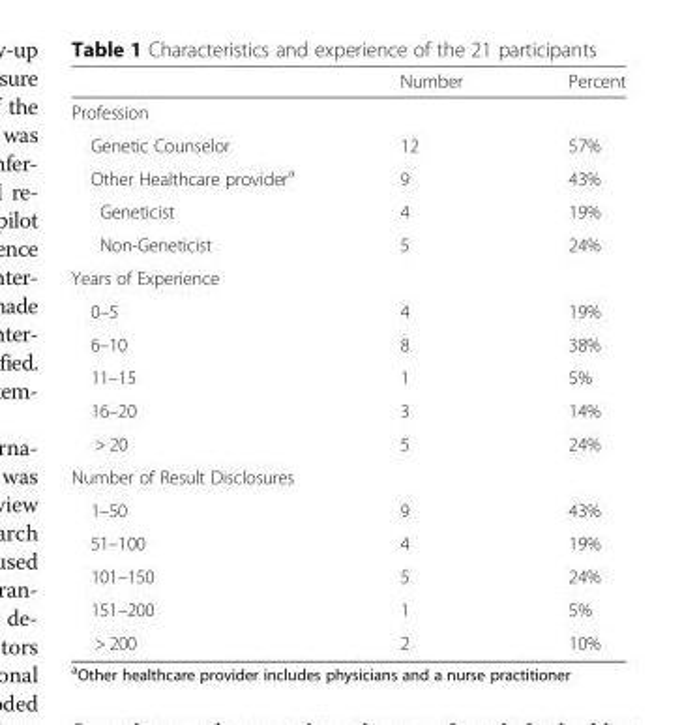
<table><thead><tr><td></td><td>Number</td><td>Percent</td></tr></thead><tbody><tr><td colspan="3">Profession</td></tr><tr><td>Genetic Counselor</td><td>12</td><td>57%</td></tr><tr><td>Other Healthcare provider<sup>a</sup></td><td>9</td><td>43%</td></tr><tr><td>Geneticist</td><td>4</td><td>19%</td></tr><tr><td>Non-Geneticist</td><td>5</td><td>24%</td></tr><tr><td colspan="3">Years of Experience</td></tr><tr><td>0–5</td><td>4</td><td>19%</td></tr><tr><td>6–10</td><td>8</td><td>38%</td></tr><tr><td>11–15</td><td>1</td><td>5%</td></tr><tr><td>16–20</td><td>3</td><td>14%</td></tr><tr><td>&gt; 20</td><td>5</td><td>24%</td></tr><tr><td colspan="3">Number of Result Disclosures</td></tr><tr><td>1–50</td><td>9</td><td>43%</td></tr><tr><td>51–100</td><td>4</td><td>19%</td></tr><tr><td>101–150</td><td>5</td><td>24%</td></tr><tr><td>151–200</td><td>1</td><td>5%</td></tr><tr><td>&gt; 200</td><td>2</td><td>10%</td></tr></tbody></table>